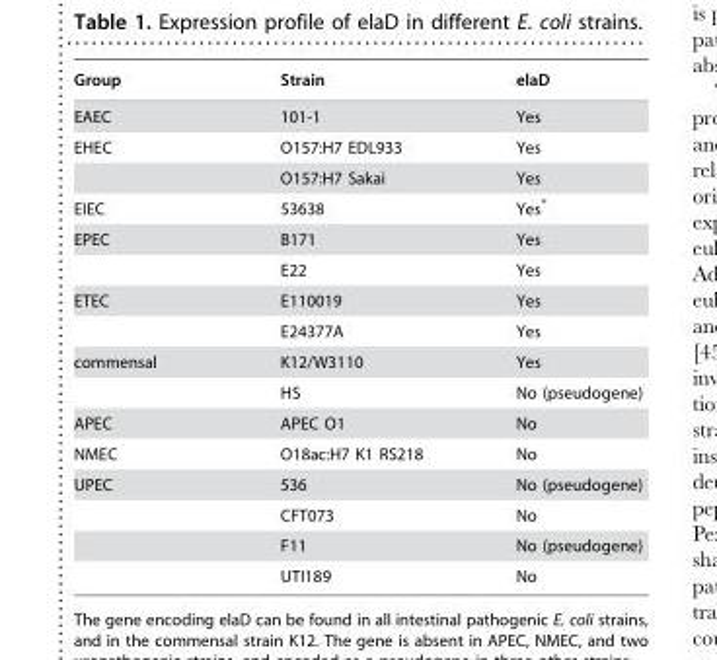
<table><thead><tr><td>Group</td><td>Strain</td><td>elaD</td></tr></thead><tbody><tr><td>EAEC</td><td>101-1</td><td>Yes</td></tr><tr><td rowspan="2">EHEC</td><td>O157:H7 EDL933</td><td>Yes</td></tr><tr><td>O157:H7 Sakai</td><td>Yes</td></tr><tr><td>EIEC</td><td>53638</td><td>Yes*</td></tr><tr><td rowspan="2">EPEC</td><td>B171</td><td>Yes</td></tr><tr><td>E22</td><td>Yes</td></tr><tr><td rowspan="2">ETEC</td><td>E110019</td><td>Yes</td></tr><tr><td>E24377A</td><td>Yes</td></tr><tr><td rowspan="2">commensal</td><td>K12/W3110</td><td>Yes</td></tr><tr><td>HS</td><td>No (pseudogene)</td></tr><tr><td>APEC</td><td>APEC O1</td><td>No</td></tr><tr><td>NMEC</td><td>O18ac:H7 K1 RS218</td><td>No</td></tr><tr><td rowspan="4">UPEC</td><td>536</td><td>No (pseudogene)</td></tr><tr><td>CFT073</td><td>No</td></tr><tr><td>F11</td><td>No (pseudogene)</td></tr><tr><td>UTI189</td><td>No</td></tr></tbody></table>